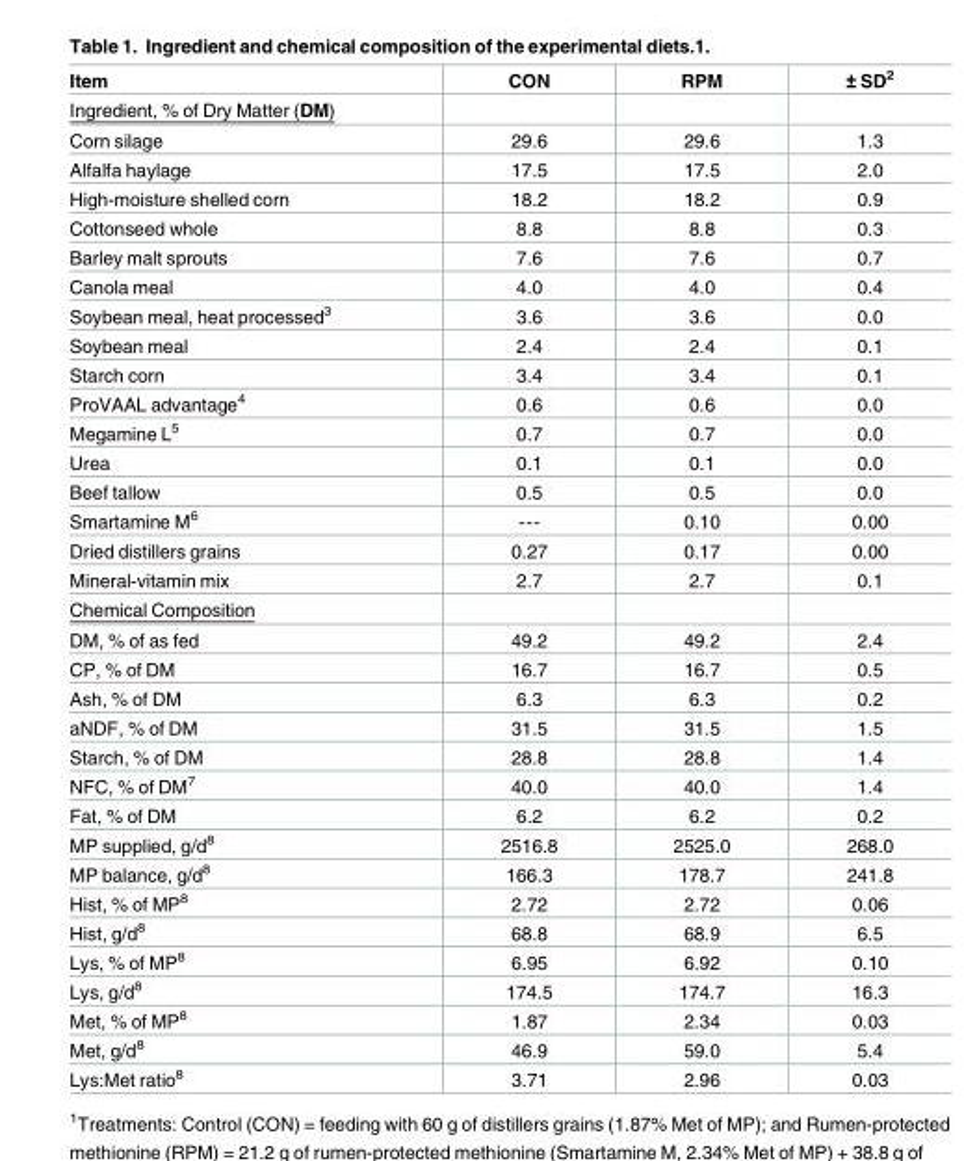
<table><thead><tr><td>Item</td><td>CON</td><td>RPM</td><td>± SD<sup>2</sup></td></tr></thead><tbody><tr><td colspan="4">Ingredient, % of Dry Matter (DM)</td></tr><tr><td>Corn silage</td><td>29.6</td><td>29.6</td><td>1.3</td></tr><tr><td>Alfalfa haylage</td><td>17.5</td><td>17.5</td><td>2.0</td></tr><tr><td>High-moisture shelled corn</td><td>18.2</td><td>18.2</td><td>0.9</td></tr><tr><td>Cottonseed whole</td><td>8.8</td><td>8.8</td><td>0.3</td></tr><tr><td>Barley malt sprouts</td><td>7.6</td><td>7.6</td><td>0.7</td></tr><tr><td>Canola meal</td><td>4.0</td><td>4.0</td><td>0.4</td></tr><tr><td>Soybean meal, heat processed<sup>3</sup></td><td>3.6</td><td>3.6</td><td>0.0</td></tr><tr><td>Soybean meal</td><td>2.4</td><td>2.4</td><td>0.1</td></tr><tr><td>Starch corn</td><td>3.4</td><td>3.4</td><td>0.1</td></tr><tr><td>ProVAAL advantage<sup>4</sup></td><td>0.6</td><td>0.6</td><td>0.0</td></tr><tr><td>Megamine L<sup>5</sup></td><td>0.7</td><td>0.7</td><td>0.0</td></tr><tr><td>Urea</td><td>0.1</td><td>0.1</td><td>0.0</td></tr><tr><td>Beef tallow</td><td>0.5</td><td>0.5</td><td>0.0</td></tr><tr><td>Smartamine M<sup>6</sup></td><td>---</td><td>0.10</td><td>0.00</td></tr><tr><td>Dried distillers grains</td><td>0.27</td><td>0.17</td><td>0.00</td></tr><tr><td>Mineral-vitamin mix</td><td>2.7</td><td>2.7</td><td>0.1</td></tr><tr><td colspan="4">Chemical Composition</td></tr><tr><td>DM, % of as fed</td><td>49.2</td><td>49.2</td><td>2.4</td></tr><tr><td>CP, % of DM</td><td>16.7</td><td>16.7</td><td>0.5</td></tr><tr><td>Ash, % of DM</td><td>6.3</td><td>6.3</td><td>0.2</td></tr><tr><td>aNDF, % of DM</td><td>31.5</td><td>31.5</td><td>1.5</td></tr><tr><td>Starch, % of DM</td><td>28.8</td><td>28.8</td><td>1.4</td></tr><tr><td>NFC, % of DM<sup>7</sup></td><td>40.0</td><td>40.0</td><td>1.4</td></tr><tr><td>Fat, % of DM</td><td>6.2</td><td>6.2</td><td>0.2</td></tr><tr><td>MP supplied, g/d<sup>8</sup></td><td>2516.8</td><td>2525.0</td><td>268.0</td></tr><tr><td>MP balance, g/d<sup>8</sup></td><td>166.3</td><td>178.7</td><td>241.8</td></tr><tr><td>Hist, % of MP<sup>8</sup></td><td>2.72</td><td>2.72</td><td>0.06</td></tr><tr><td>Hist, g/d<sup>8</sup></td><td>68.8</td><td>68.9</td><td>6.5</td></tr><tr><td>Lys, % of MP<sup>8</sup></td><td>6.95</td><td>6.92</td><td>0.10</td></tr><tr><td>Lys, g/d<sup>8</sup></td><td>174.5</td><td>174.7</td><td>16.3</td></tr><tr><td>Met, % of MP<sup>8</sup></td><td>1.87</td><td>2.34</td><td>0.03</td></tr><tr><td>Met, g/d<sup>8</sup></td><td>46.9</td><td>59.0</td><td>5.4</td></tr><tr><td>Lys:Met ratio<sup>8</sup></td><td>3.71</td><td>2.96</td><td>0.03</td></tr></tbody></table>